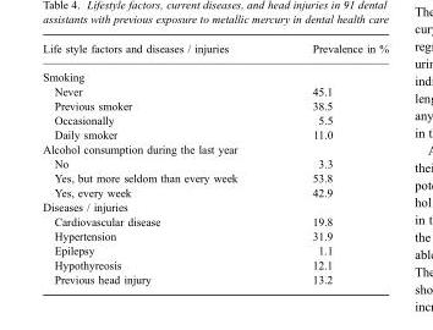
<table><thead><tr><td>Life style factors and diseases / injuries</td><td>Prevalence in %</td></tr></thead><tbody><tr><td colspan="2">Smoking</td></tr><tr><td>Never</td><td>45.1</td></tr><tr><td>Previous smoker</td><td>38.5</td></tr><tr><td>Occasionally</td><td>5.5</td></tr><tr><td>Daily smoker</td><td>11.0</td></tr><tr><td colspan="2">Alcohol consumption during the last year</td></tr><tr><td>No</td><td>3.3</td></tr><tr><td>Yes, but more seldom than every week</td><td>53.8</td></tr><tr><td>Yes, every week</td><td>42.9</td></tr><tr><td colspan="2">Diseases / injuries</td></tr><tr><td>Cardiovascular disease</td><td>19.8</td></tr><tr><td>Hypertension</td><td>31.9</td></tr><tr><td>Epilepsy</td><td>1.1</td></tr><tr><td>Hypothyreosis</td><td>12.1</td></tr><tr><td>Previous head injury</td><td>13.2</td></tr></tbody></table>